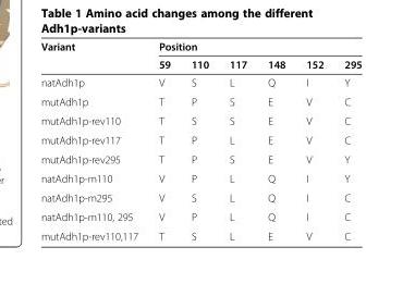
<table><thead><tr><td rowspan="2">Variant</td><td colspan="6">Position</td></tr><tr><td>59</td><td>110</td><td>117</td><td>148</td><td>152</td><td>295</td></tr></thead><tbody><tr><td>natAdh1p</td><td>V</td><td>S</td><td>L</td><td>Q</td><td>I</td><td>Y</td></tr><tr><td>mutAdh1p</td><td>T</td><td>P</td><td>S</td><td>E</td><td>V</td><td>C</td></tr><tr><td>mutAdh1p-rev110</td><td>T</td><td>S</td><td>S</td><td>E</td><td>V</td><td>C</td></tr><tr><td>mutAdh1p-rev117</td><td>T</td><td>P</td><td>L</td><td>E</td><td>V</td><td>C</td></tr><tr><td>mutAdh1p-rev295</td><td>T</td><td>P</td><td>S</td><td>E</td><td>V</td><td>Y</td></tr><tr><td>natAdh1p-m110</td><td>V</td><td>P</td><td>L</td><td>Q</td><td>I</td><td>Y</td></tr><tr><td>natAdh1p-m295</td><td>V</td><td>S</td><td>L</td><td>Q</td><td>I</td><td>C</td></tr><tr><td>natAdh1p-m110, 295</td><td>V</td><td>P</td><td>L</td><td>Q</td><td>I</td><td>C</td></tr><tr><td>mutAdh1p-rev110,117</td><td>T</td><td>S</td><td>L</td><td>E</td><td>V</td><td>C</td></tr></tbody></table>